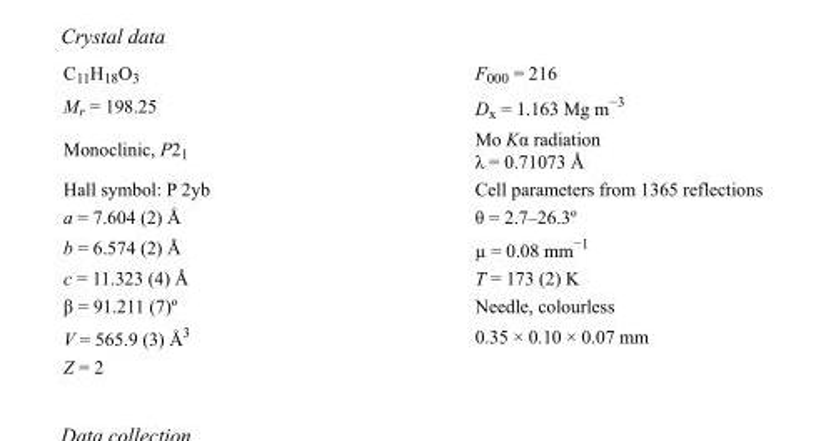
<table><tbody><tr><td>C<sub>11</sub>H<sub>18</sub>O<sub>3</sub></td><td>F000 = 216</td></tr><tr><td>M<sub>r</sub> = 198.25</td><td>D<sub>x</sub> = 1.163 Mg m<sup>−3</sup></td></tr><tr><td>Monoclinic, P2<sub>1</sub></td><td>Mo Kα radiation λ = 0.71073 Å</td></tr><tr><td>Hall symbol: P 2yb</td><td>Cell parameters from 1365 reflections</td></tr><tr><td>a = 7.604 (2) Å</td><td>θ = 2.7–26.3º</td></tr><tr><td>b = 6.574 (2) Å</td><td>µ = 0.08 mm<sup>−1</sup></td></tr><tr><td>c = 11.323 (4) Å</td><td>T = 173 (2) K</td></tr><tr><td>β = 91.211 (7)º</td><td>Needle, colourless</td></tr><tr><td>V = 565.9 (3) Å<sup>3</sup></td><td>0.35 × 0.10 × 0.07 mm</td></tr><tr><td>Z = 2</td><td></td></tr></tbody></table>